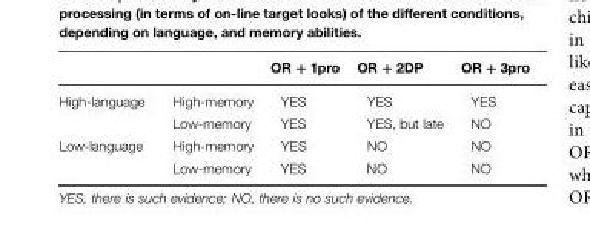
<table><thead><tr><td></td><td></td><td>OR + 1pro</td><td>OR + 2DP</td><td>OR + 3pro</td></tr></thead><tbody><tr><td rowspan="2">High-language</td><td>High-memory</td><td>YES</td><td>YES</td><td>YES</td></tr><tr><td>Low-memory</td><td>YES</td><td>YES, but late</td><td>NO</td></tr><tr><td rowspan="2">Low-language</td><td>High-memory</td><td>YES</td><td>NO</td><td>NO</td></tr><tr><td>Low-memory</td><td>YES</td><td>NO</td><td>NO</td></tr></tbody></table>